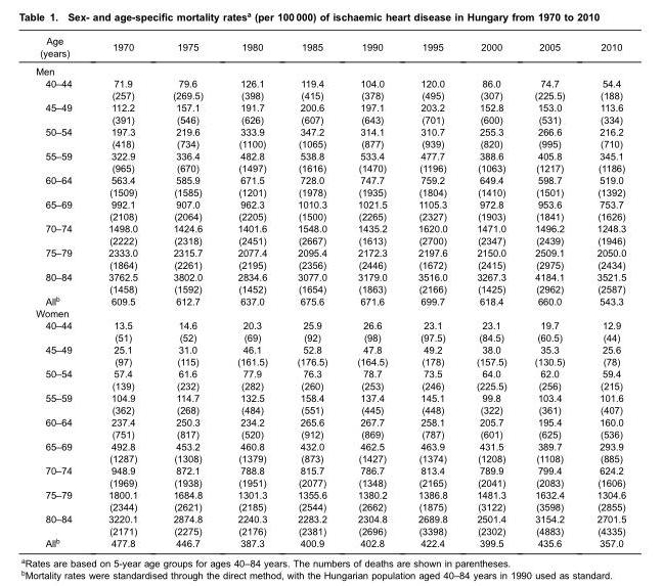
<table><thead><tr><td>Age (years)</td><td>1970</td><td>1975</td><td>1980</td><td>1985</td><td>1990</td><td>1995</td><td>2000</td><td>2005</td><td>2010</td></tr></thead><tbody><tr><td colspan="10">Men</td></tr><tr><td>40–44</td><td>71.9 (257)</td><td>79.6 (269.5)</td><td>126.1 (398)</td><td>119.4 (415)</td><td>104.0 (378)</td><td>120.0 (495)</td><td>86.0 (307)</td><td>74.7 (225.5)</td><td>54.4 (188)</td></tr><tr><td>45–49</td><td>112.2 (391)</td><td>157.1 (546)</td><td>191.7 (626)</td><td>200.6 (607)</td><td>197.1 (643)</td><td>203.2 (701)</td><td>152.8 (600)</td><td>153.0 (531)</td><td>113.6 (334)</td></tr><tr><td>50–54</td><td>197.3 (418)</td><td>219.6 (734)</td><td>333.9 (1100)</td><td>347.2 (1065)</td><td>314.1 (877)</td><td>310.7 (939)</td><td>255.3 (820)</td><td>266.6 (995)</td><td>216.2 (710)</td></tr><tr><td>55–59</td><td>322.9 (965)</td><td>336.4 (670)</td><td>482.8 (1497)</td><td>538.8 (1616)</td><td>533.4 (1470)</td><td>477.7 (1196)</td><td>388.6 (1063)</td><td>405.8 (1217)</td><td>345.1 (1186)</td></tr><tr><td>60–64</td><td>563.4 (1509)</td><td>585.9 (1585)</td><td>671.5 (1201)</td><td>728.0 (1978)</td><td>747.7 (1935)</td><td>759.2 (1804)</td><td>649.4 (1410)</td><td>598.7 (1501)</td><td>519.0 (1392)</td></tr><tr><td>65–69</td><td>992.1 (2108)</td><td>907.0 (2064)</td><td>962.3 (2205)</td><td>1010.3 (1500)</td><td>1021.5 (2265)</td><td>1105.3 (2327)</td><td>972.8 (1903)</td><td>953.6 (1841)</td><td>753.7 (1626)</td></tr><tr><td>70–74</td><td>1498.0 (2222)</td><td>1424.6 (2318)</td><td>1401.6 (2451)</td><td>1548.0 (2667)</td><td>1435.2 (1613)</td><td>1620.0 (2700)</td><td>1471.0 (2347)</td><td>1496.2 (2439)</td><td>1248.3 (1946)</td></tr><tr><td>75–79</td><td>2333.0 (1864)</td><td>2315.7 (2261)</td><td>2077.4 (2195)</td><td>2095.4 (2356)</td><td>2172.3 (2446)</td><td>2197.6 (1672)</td><td>2150.0 (2415)</td><td>2509.1 (2975)</td><td>2050.0 (2434)</td></tr><tr><td>80–84</td><td>3762.5 (1458)</td><td>3802.0 (1592)</td><td>2834.6 (1452)</td><td>3077.0 (1654)</td><td>3179.0 (1863)</td><td>3516.0 (2166)</td><td>3267.3 (1425)</td><td>4184.1 (2962)</td><td>3521.5 (2587)</td></tr><tr><td>All<sup>b</sup></td><td>609.5</td><td>612.7</td><td>637.0</td><td>675.6</td><td>671.6</td><td>699.7</td><td>618.4</td><td>660.0</td><td>543.3</td></tr><tr><td colspan="10">Women</td></tr><tr><td>40–44</td><td>13.5 (51)</td><td>14.6 (52)</td><td>20.3 (69)</td><td>25.9 (92)</td><td>26.6 (98)</td><td>23.1 (97.5)</td><td>23.1 (84.5)</td><td>19.7 (60.5)</td><td>12.9 (44)</td></tr><tr><td>45–49</td><td>25.1 (97)</td><td>31.0 (115)</td><td>46.1 (161.5)</td><td>52.8 (176.5)</td><td>47.8 (164.5)</td><td>49.2 (178)</td><td>38.0 (157.5)</td><td>35.3 (130.5)</td><td>25.6 (78)</td></tr><tr><td>50–54</td><td>57.4 (139)</td><td>61.6 (232)</td><td>77.9 (282)</td><td>76.3 (260)</td><td>78.7 (253)</td><td>73.5 (246)</td><td>64.0 (225.5)</td><td>62.0 (256)</td><td>59.4 (215)</td></tr><tr><td>55–59</td><td>104.9 (362)</td><td>114.7 (268)</td><td>132.5 (484)</td><td>158.4 (551)</td><td>137.4 (445)</td><td>145.1 (448)</td><td>99.8 (322)</td><td>103.4 (361)</td><td>101.6 (407)</td></tr><tr><td>60–64</td><td>237.4 (751)</td><td>250.3 (817)</td><td>234.2 (520)</td><td>265.6 (912)</td><td>267.7 (869)</td><td>258.1 (787)</td><td>205.7 (601)</td><td>195.4 (625)</td><td>160.0 (536)</td></tr><tr><td>65–69</td><td>492.8 (1287)</td><td>453.2 (1308)</td><td>460.8 (1379)</td><td>432.0 (873)</td><td>462.5 (1427)</td><td>463.9 (1374)</td><td>431.5 (1208)</td><td>389.7 (1108)</td><td>293.9 (885)</td></tr><tr><td>70–74</td><td>948.9 (1969)</td><td>872.1 (1938)</td><td>788.8 (1951)</td><td>815.7 (2077)</td><td>786.7 (1348)</td><td>813.4 (2165)</td><td>789.9 (2041)</td><td>799.4 (2083)</td><td>624.2 (1606)</td></tr><tr><td>75–79</td><td>1800.1 (2344)</td><td>1684.8 (2621)</td><td>1301.3 (2185)</td><td>1355.6 (2544)</td><td>1380.2 (2662)</td><td>1386.8 (1875)</td><td>1481.3 (3122)</td><td>1632.4 (3598)</td><td>1304.6 (2855)</td></tr><tr><td>80–84</td><td>3220.1 (2171)</td><td>2874.8 (2275)</td><td>2240.3 (2176)</td><td>2283.2 (2381)</td><td>2304.8 (2696)</td><td>2689.8 (3398)</td><td>2501.4 (2302)</td><td>3154.2 (4883)</td><td>2701.5 (4335)</td></tr><tr><td>All<sup>b</sup></td><td>477.8</td><td>446.7</td><td>387.3</td><td>400.9</td><td>402.8</td><td>422.4</td><td>399.5</td><td>435.6</td><td>357.0</td></tr></tbody></table>